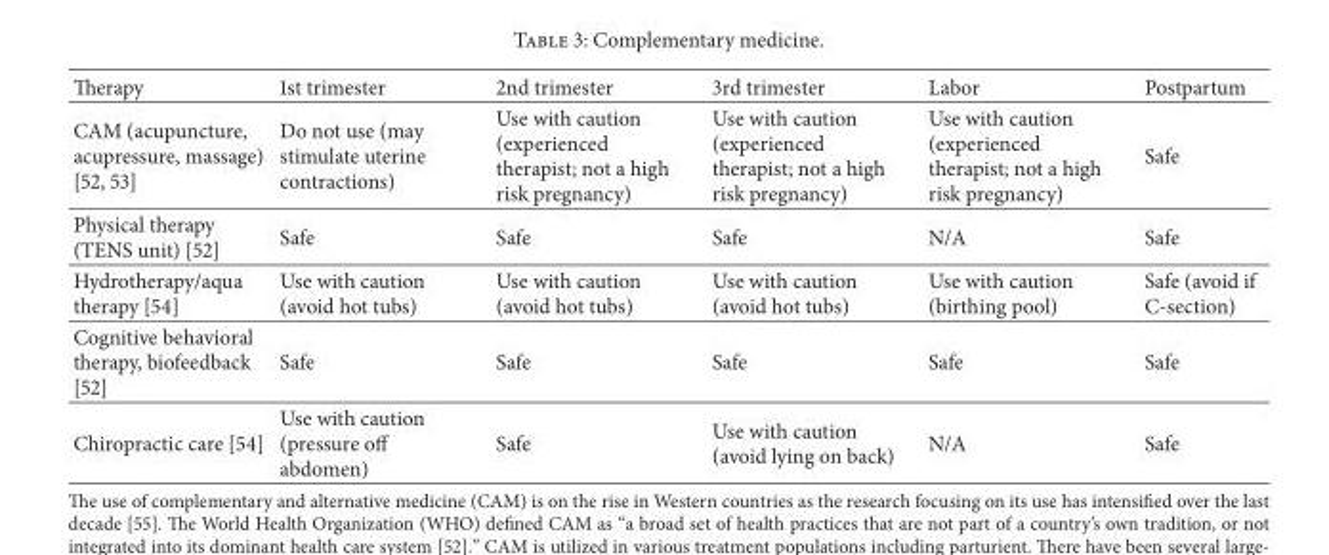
<table><thead><tr><td>Therapy</td><td>1st trimester</td><td>2nd trimester</td><td>3rd trimester</td><td>Labor</td><td>Postpartum</td></tr></thead><tbody><tr><td>CAM (acupuncture, acupressure, massage) [52, 53]</td><td>Do not use (may stimulate uterine contractions)</td><td>Use with caution (experienced therapist; not a high risk pregnancy)</td><td>Use with caution (experienced therapist; not a high risk pregnancy)</td><td>Use with caution (experienced therapist; not a high risk pregnancy)</td><td>Safe</td></tr><tr><td>Physical therapy (TENS unit) [52]</td><td>Safe</td><td>Safe</td><td>Safe</td><td>N/A</td><td>Safe</td></tr><tr><td>Hydrotherapy/aqua therapy [54]</td><td>Use with caution (avoid hot tubs)</td><td>Use with caution (avoid hot tubs)</td><td>Use with caution (avoid hot tubs)</td><td>Use with caution (birthing pool)</td><td>Safe (avoid if C-section)</td></tr><tr><td>Cognitive behavioral therapy, biofeedback [52]</td><td>Safe</td><td>Safe</td><td>Safe</td><td>Safe</td><td>Safe</td></tr><tr><td>Chiropractic care [54]</td><td>Use with caution (pressure off abdomen)</td><td>Safe</td><td>Use with caution (avoid lying on back)</td><td>N/A</td><td>Safe</td></tr></tbody></table>